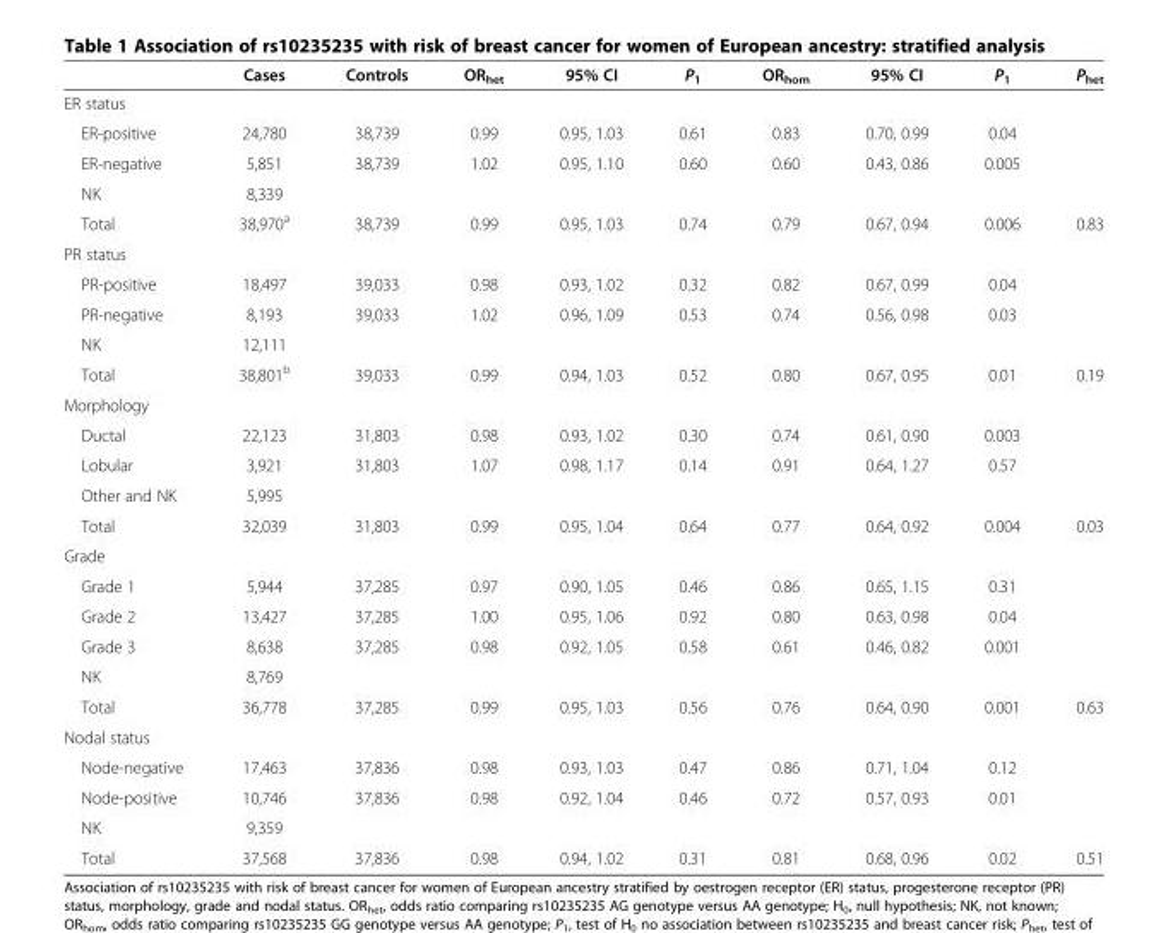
<table><thead><tr><td></td><td>Cases</td><td>Controls</td><td>OR<sub>het</sub></td><td>95% CI</td><td>P<sub>1</sub></td><td>OR<sub>hom</sub></td><td>95% CI</td><td>P<sub>1</sub></td><td>P<sub>het</sub></td></tr></thead><tbody><tr><td colspan="10">ER status</td></tr><tr><td>ER-positive</td><td>24,780</td><td>38,739</td><td>0.99</td><td>0.95, 1.03</td><td>0.61</td><td>0.83</td><td>0.70, 0.99</td><td>0.04</td><td></td></tr><tr><td>ER-negative</td><td>5,851</td><td>38,739</td><td>1.02</td><td>0.95, 1.10</td><td>0.60</td><td>0.60</td><td>0.43, 0.86</td><td>0.005</td><td></td></tr><tr><td>NK</td><td>8,339</td><td></td><td></td><td></td><td></td><td></td><td></td><td></td><td></td></tr><tr><td>Total</td><td>38,970<sup>a</sup></td><td>38,739</td><td>0.99</td><td>0.95, 1.03</td><td>0.74</td><td>0.79</td><td>0.67, 0.94</td><td>0.006</td><td>0.83</td></tr><tr><td colspan="10">PR status</td></tr><tr><td>PR-positive</td><td>18,497</td><td>39,033</td><td>0.98</td><td>0.93, 1.02</td><td>0.32</td><td>0.82</td><td>0.67, 0.99</td><td>0.04</td><td></td></tr><tr><td>PR-negative</td><td>8,193</td><td>39,033</td><td>1.02</td><td>0.96, 1.09</td><td>0.53</td><td>0.74</td><td>0.56, 0.98</td><td>0.03</td><td></td></tr><tr><td>NK</td><td>12,111</td><td></td><td></td><td></td><td></td><td></td><td></td><td></td><td></td></tr><tr><td>Total</td><td>38,801<sup>b</sup></td><td>39,033</td><td>0.99</td><td>0.94, 1.03</td><td>0.52</td><td>0.80</td><td>0.67, 0.95</td><td>0.01</td><td>0.19</td></tr><tr><td colspan="10">Morphology</td></tr><tr><td>Ductal</td><td>22,123</td><td>31,803</td><td>0.98</td><td>0.93, 1.02</td><td>0.30</td><td>0.74</td><td>0.61, 0.90</td><td>0.003</td><td></td></tr><tr><td>Lobular</td><td>3,921</td><td>31,803</td><td>1.07</td><td>0.98, 1.17</td><td>0.14</td><td>0.91</td><td>0.64, 1.27</td><td>0.57</td><td></td></tr><tr><td>Other and NK</td><td>5,995</td><td></td><td></td><td></td><td></td><td></td><td></td><td></td><td></td></tr><tr><td>Total</td><td>32,039</td><td>31,803</td><td>0.99</td><td>0.95, 1.04</td><td>0.64</td><td>0.77</td><td>0.64, 0.92</td><td>0.004</td><td>0.03</td></tr><tr><td colspan="10">Grade</td></tr><tr><td>Grade 1</td><td>5,944</td><td>37,285</td><td>0.97</td><td>0.90, 1.05</td><td>0.46</td><td>0.86</td><td>0.65, 1.15</td><td>0.31</td><td></td></tr><tr><td>Grade 2</td><td>13,427</td><td>37,285</td><td>1.00</td><td>0.95, 1.06</td><td>0.92</td><td>0.80</td><td>0.63, 0.98</td><td>0.04</td><td></td></tr><tr><td>Grade 3</td><td>8,638</td><td>37,285</td><td>0.98</td><td>0.92, 1.05</td><td>0.58</td><td>0.61</td><td>0.46, 0.82</td><td>0.001</td><td></td></tr><tr><td>NK</td><td>8,769</td><td></td><td></td><td></td><td></td><td></td><td></td><td></td><td></td></tr><tr><td>Total</td><td>36,778</td><td>37,285</td><td>0.99</td><td>0.95, 1.03</td><td>0.56</td><td>0.76</td><td>0.64, 0.90</td><td>0.001</td><td>0.63</td></tr><tr><td colspan="10">Nodal status</td></tr><tr><td>Node-negative</td><td>17,463</td><td>37,836</td><td>0.98</td><td>0.93, 1.03</td><td>0.47</td><td>0.86</td><td>0.71, 1.04</td><td>0.12</td><td></td></tr><tr><td>Node-positive</td><td>10,746</td><td>37,836</td><td>0.98</td><td>0.92, 1.04</td><td>0.46</td><td>0.72</td><td>0.57, 0.93</td><td>0.01</td><td></td></tr><tr><td>NK</td><td>9,359</td><td></td><td></td><td></td><td></td><td></td><td></td><td></td><td></td></tr><tr><td>Total</td><td>37,568</td><td>37,836</td><td>0.98</td><td>0.94, 1.02</td><td>0.31</td><td>0.81</td><td>0.68, 0.96</td><td>0.02</td><td>0.51</td></tr></tbody></table>